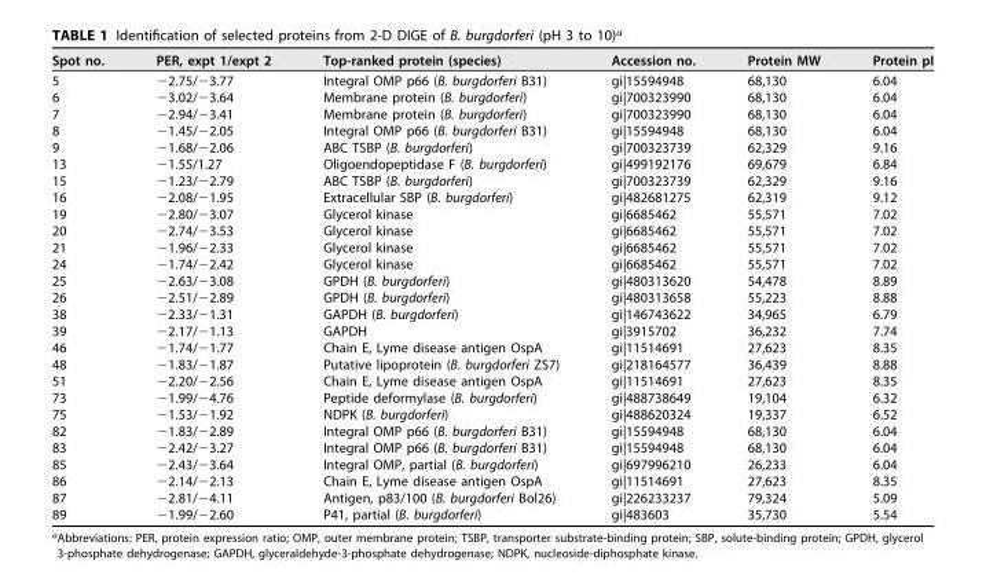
<table><thead><tr><td>Spot no.</td><td>PER, expt 1/expt 2</td><td>Top-ranked protein (species)</td><td>Accession no.</td><td>Protein MW</td><td>Protein pI</td></tr></thead><tbody><tr><td>5</td><td>−2.75/−3.77</td><td>Integral OMP p66 (B. burgdorferi B31)</td><td>gi|15594948</td><td>68,130</td><td>6.04</td></tr><tr><td>6</td><td>−3.02/−3.64</td><td>Membrane protein (B. burgdorferi)</td><td>gi|700323990</td><td>68,130</td><td>6.04</td></tr><tr><td>7</td><td>−2.94/−3.41</td><td>Membrane protein (B. burgdorferi)</td><td>gi|700323990</td><td>68,130</td><td>6.04</td></tr><tr><td>8</td><td>−1.45/−2.05</td><td>Integral OMP p66 (B. burgdorferi B31)</td><td>gi|15594948</td><td>68,130</td><td>6.04</td></tr><tr><td>9</td><td>−1.68/−2.06</td><td>ABC TSBP (B. burgdorferi)</td><td>gi|700323739</td><td>62,329</td><td>9.16</td></tr><tr><td>13</td><td>−1.55/1.27</td><td>Oligoendopeptidase F (B. burgdorferi)</td><td>gi|499192176</td><td>69,679</td><td>6.84</td></tr><tr><td>15</td><td>−1.23/−2.79</td><td>ABC TSBP (B. burgdorferi)</td><td>gi|700323739</td><td>62,329</td><td>9.16</td></tr><tr><td>16</td><td>−2.08/−1.95</td><td>Extracellular SBP (B. burgdorferi)</td><td>gi|482681275</td><td>62,319</td><td>9.12</td></tr><tr><td>19</td><td>−2.80/−3.07</td><td>Glycerol kinase</td><td>gi|6685462</td><td>55,571</td><td>7.02</td></tr><tr><td>20</td><td>−2.74/−3.53</td><td>Glycerol kinase</td><td>gi|6685462</td><td>55,571</td><td>7.02</td></tr><tr><td>21</td><td>−1.96/−2.33</td><td>Glycerol kinase</td><td>gi|6685462</td><td>55,571</td><td>7.02</td></tr><tr><td>24</td><td>−1.74/−2.42</td><td>Glycerol kinase</td><td>gi|6685462</td><td>55,571</td><td>7.02</td></tr><tr><td>25</td><td>−2.63/−3.08</td><td>GPDH (B. burgdorferi)</td><td>gi|480313620</td><td>54,478</td><td>8.89</td></tr><tr><td>26</td><td>−2.51/−2.89</td><td>GPDH (B. burgdorferi)</td><td>gi|480313658</td><td>55,223</td><td>8.88</td></tr><tr><td>38</td><td>−2.33/−1.31</td><td>GAPDH (B. burgdorferi)</td><td>gi|146743622</td><td>34,965</td><td>6.79</td></tr><tr><td>39</td><td>−2.17/−1.13</td><td>GAPDH</td><td>gi|3915702</td><td>36,232</td><td>7.74</td></tr><tr><td>46</td><td>−1.74/−1.77</td><td>Chain E, Lyme disease antigen OspA</td><td>gi|11514691</td><td>27,623</td><td>8.35</td></tr><tr><td>48</td><td>−1.83/−1.87</td><td>Putative lipoprotein (B. burgdorferi ZS7)</td><td>gi|218164577</td><td>36,439</td><td>8.88</td></tr><tr><td>51</td><td>−2.20/−2.56</td><td>Chain E, Lyme disease antigen OspA</td><td>gi|11514691</td><td>27,623</td><td>8.35</td></tr><tr><td>73</td><td>−1.99/−4.76</td><td>Peptide deformylase (B. burgdorferi)</td><td>gi|488738649</td><td>19,104</td><td>6.32</td></tr><tr><td>75</td><td>−1.53/−1.92</td><td>NDPK (B. burgdorferi)</td><td>gi|488620324</td><td>19,337</td><td>6.52</td></tr><tr><td>82</td><td>−1.83/−2.89</td><td>Integral OMP p66 (B. burgdorferi B31)</td><td>gi|15594948</td><td>68,130</td><td>6.04</td></tr><tr><td>83</td><td>−2.42/−3.27</td><td>Integral OMP p66 (B. burgdorferi B31)</td><td>gi|15594948</td><td>68,130</td><td>6.04</td></tr><tr><td>85</td><td>−2.43/−3.64</td><td>Integral OMP, partial (B. burgdorferi)</td><td>gi|697996210</td><td>26,233</td><td>6.04</td></tr><tr><td>86</td><td>−2.14/−2.13</td><td>Chain E, Lyme disease antigen OspA</td><td>gi|11514691</td><td>27,623</td><td>8.35</td></tr><tr><td>87</td><td>−2.81/−4.11</td><td>Antigen, p83/100 (B. burgdorferi Bol26)</td><td>gi|226233237</td><td>79,324</td><td>5.09</td></tr><tr><td>89</td><td>−1.99/−2.60</td><td>P41, partial (B. burgdorferi)</td><td>gi|483603</td><td>35,730</td><td>5.54</td></tr></tbody></table>